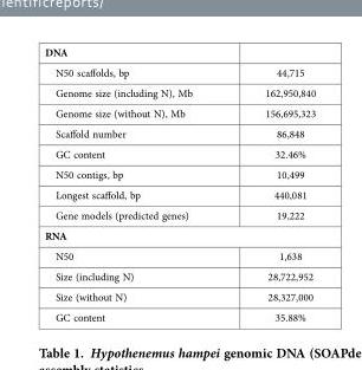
<table><tbody><tr><td colspan="2">DNA</td></tr><tr><td>N50 scaffolds, bp</td><td>44,715</td></tr><tr><td>Genome size (including N), Mb</td><td>162,950,840</td></tr><tr><td>Genome size (without N), Mb</td><td>156,695,323</td></tr><tr><td>Scaffold number</td><td>86,848</td></tr><tr><td>GC content</td><td>32.46%</td></tr><tr><td>N50 contigs, bp</td><td>10,499</td></tr><tr><td>Longest scaffold, bp</td><td>440,081</td></tr><tr><td>Gene models (predicted genes)</td><td>19,222</td></tr><tr><td colspan="2">RNA</td></tr><tr><td>N50</td><td>1,638</td></tr><tr><td>Size (including N)</td><td>28,722,952</td></tr><tr><td>Size (without N)</td><td>28,327,000</td></tr><tr><td>GC content</td><td>35.88%</td></tr></tbody></table>